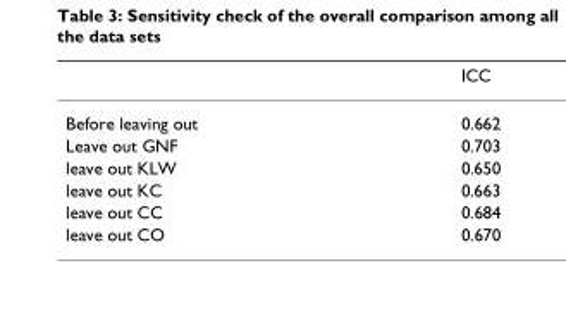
<table><thead><tr><td></td><td>ICC</td></tr></thead><tbody><tr><td>Before leaving out</td><td>0.662</td></tr><tr><td>Leave out GNF</td><td>0.703</td></tr><tr><td>leave out KLW</td><td>0.650</td></tr><tr><td>leave out KC</td><td>0.663</td></tr><tr><td>leave out CC</td><td>0.684</td></tr><tr><td>leave out CO</td><td>0.670</td></tr></tbody></table>